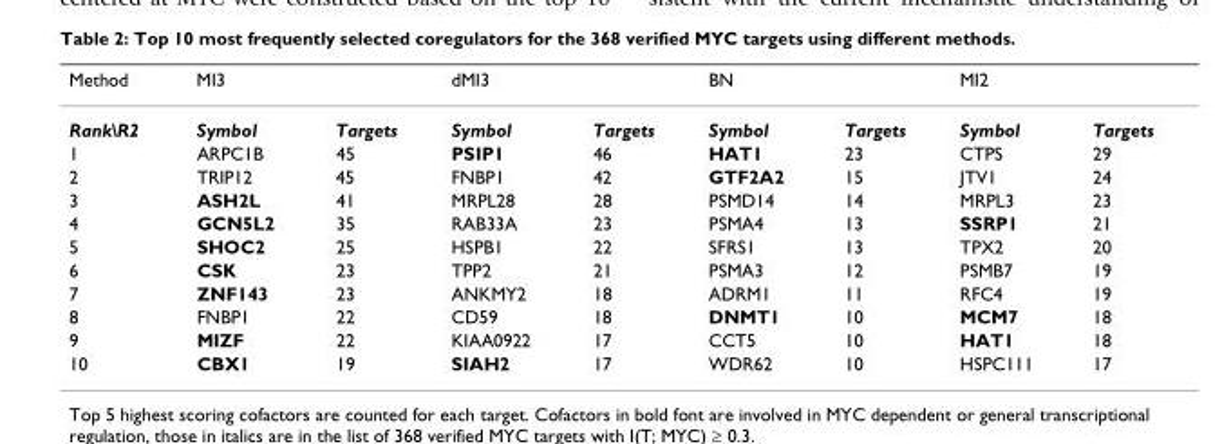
<table><thead><tr><td rowspan="2">Method Rank\R2</td><td colspan="2">MI3</td><td colspan="2">dMI3</td><td colspan="2">BN</td><td colspan="2">MI2</td></tr><tr><td>Symbol</td><td>Targets</td><td>Symbol</td><td>Targets</td><td>Symbol</td><td>Targets</td><td>Symbol</td><td>Targets</td></tr></thead><tbody><tr><td>1</td><td>ARPC1B</td><td>45</td><td>PSIP1</td><td>46</td><td>HAT1</td><td>23</td><td>CTPS</td><td>29</td></tr><tr><td>2</td><td>TRIP12</td><td>45</td><td>FNBP1</td><td>42</td><td>GTF2A2</td><td>15</td><td>JTV1</td><td>24</td></tr><tr><td>3</td><td>ASH2L</td><td>41</td><td>MRPL28</td><td>28</td><td>PSMD14</td><td>14</td><td>MRPL3</td><td>23</td></tr><tr><td>4</td><td>GCN5L2</td><td>35</td><td>RAB33A</td><td>23</td><td>PSMA4</td><td>13</td><td>SSRP1</td><td>21</td></tr><tr><td>5</td><td>SHOC2</td><td>25</td><td>HSPB1</td><td>22</td><td>SFRS1</td><td>13</td><td>TPX2</td><td>20</td></tr><tr><td>6</td><td>CSK</td><td>23</td><td>TPP2</td><td>21</td><td>PSMA3</td><td>12</td><td>PSMB7</td><td>19</td></tr><tr><td>7</td><td>ZNF143</td><td>23</td><td>ANKMY2</td><td>18</td><td>ADRM1</td><td>11</td><td>RFC4</td><td>19</td></tr><tr><td>8</td><td>FNBP1</td><td>22</td><td>CD59</td><td>18</td><td>DNMT1</td><td>10</td><td>MCM7</td><td>18</td></tr><tr><td>9</td><td>MIZF</td><td>22</td><td>KIAA0922</td><td>17</td><td>CCT5</td><td>10</td><td>HAT1</td><td>18</td></tr><tr><td>10</td><td>CBX1</td><td>19</td><td>SIAH2</td><td>17</td><td>WDR62</td><td>10</td><td>HSPC111</td><td>17</td></tr></tbody></table>